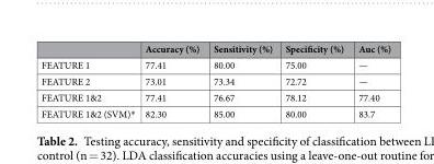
<table><thead><tr><td></td><td>Accuracy (%)</td><td>Sensitivity (%)</td><td>Specificity (%)</td><td>Auc (%)</td></tr></thead><tbody><tr><td>FEATURE 1</td><td>77.41</td><td>80.00</td><td>75.00</td><td>—</td></tr><tr><td>FEATURE 2</td><td>73.01</td><td>73.34</td><td>72.72</td><td>—</td></tr><tr><td>FEATURE 1&amp;2</td><td>77.41</td><td>76.67</td><td>78.12</td><td>77.40</td></tr><tr><td>FEATURE 1&amp;2 (SVM)*</td><td>82.30</td><td>85.00</td><td>80.00</td><td>83.7</td></tr></tbody></table>